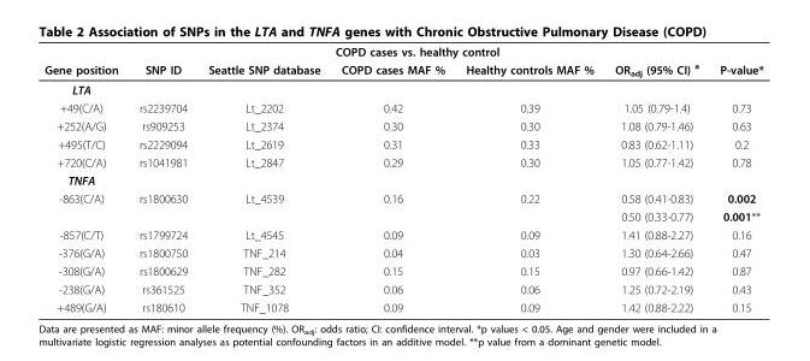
<table><thead><tr><td rowspan="2">Gene position</td><td rowspan="2">SNP ID</td><td rowspan="2">Seattle SNP database</td><td colspan="4">COPD cases vs. healthy control</td></tr><tr><td>COPD cases MAF %</td><td>Healthy controls MAF %</td><td>OR<sub>adj</sub> (95% CI) <sup>a</sup></td><td>P-value*</td></tr></thead><tbody><tr><td colspan="7">LTA</td></tr><tr><td>+49(C/A)</td><td>rs2239704</td><td>Lt_2202</td><td>0.42</td><td>0.39</td><td>1.05 (0.79-1.4)</td><td>0.73</td></tr><tr><td>+252(A/G)</td><td>rs909253</td><td>Lt_2374</td><td>0.30</td><td>0.30</td><td>1.08 (0.79-1.46)</td><td>0.63</td></tr><tr><td>+495(T/C)</td><td>rs2229094</td><td>Lt_2619</td><td>0.31</td><td>0.33</td><td>0.83 (0.62-1.11)</td><td>0.2</td></tr><tr><td>+720(C/A)</td><td>rs1041981</td><td>Lt_2847</td><td>0.29</td><td>0.30</td><td>1.05 (0.77-1.42)</td><td>0.78</td></tr><tr><td colspan="7">TNFA</td></tr><tr><td rowspan="2">-863(C/A)</td><td>rs1800630</td><td>Lt_4539</td><td>0.16</td><td>0.22</td><td>0.58 (0.41-0.83)</td><td>0.002</td></tr><tr><td></td><td></td><td></td><td></td><td>0.50 (0.33-0.77)</td><td>0.001**</td></tr><tr><td>-857(C/T)</td><td>rs1799724</td><td>Lt_4545</td><td>0.09</td><td>0.09</td><td>1.41 (0.88-2.27)</td><td>0.16</td></tr><tr><td>-376(G/A)</td><td>rs1800750</td><td>TNF_214</td><td>0.04</td><td>0.03</td><td>1.30 (0.64-2.66)</td><td>0.47</td></tr><tr><td>-308(G/A)</td><td>rs1800629</td><td>TNF_282</td><td>0.15</td><td>0.15</td><td>0.97 (0.66-1.42)</td><td>0.87</td></tr><tr><td>-238(G/A)</td><td>rs361525</td><td>TNF_352</td><td>0.06</td><td>0.06</td><td>1.25 (0.72-2.19)</td><td>0.43</td></tr><tr><td>+489(G/A)</td><td>rs180610</td><td>TNF_1078</td><td>0.09</td><td>0.09</td><td>1.42 (0.88-2.22)</td><td>0.15</td></tr></tbody></table>